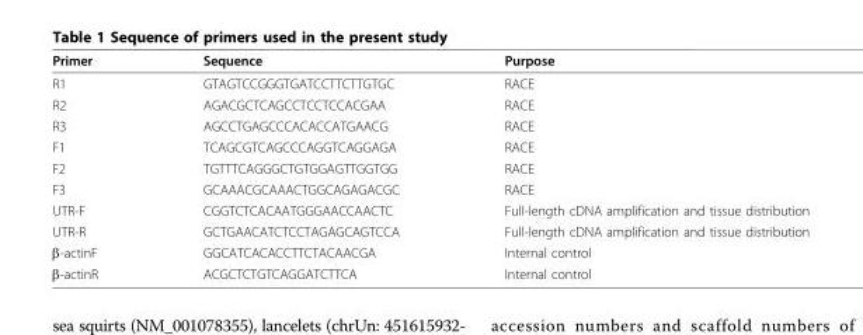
<table><thead><tr><td>Primer</td><td>Sequence</td><td>Purpose</td></tr></thead><tbody><tr><td>R1</td><td>GTAGTCCGGGTGATCCTTCTTGTGC</td><td>RACE</td></tr><tr><td>R2</td><td>AGACGCTCAGCCTCCTCCACGAA</td><td>RACE</td></tr><tr><td>R3</td><td>AGCCTGAGCCCACACCATGAACG</td><td>RACE</td></tr><tr><td>F1</td><td>TCAGCGTCAGCCCAGGTCAGGAGA</td><td>RACE</td></tr><tr><td>F2</td><td>TGTTTCAGGGCTGTGGAGTTGGTGG</td><td>RACE</td></tr><tr><td>F3</td><td>GCAAACGCAAACTGGCAGAGACGC</td><td>RACE</td></tr><tr><td>UTR-F</td><td>CGGTCTCACAATGGGAACCAACTC</td><td>Full-length cDNA amplification and tissue distribution</td></tr><tr><td>UTR-R</td><td>GCTGAACATCTCCTAGAGCAGTCCA</td><td>Full-length cDNA amplification and tissue distribution</td></tr><tr><td>β-actinF</td><td>GGCATCACACCTTCTACAACGA</td><td>Internal control</td></tr><tr><td>β-actinR</td><td>ACGCTCTGTCAGGATCTTCA</td><td>Internal control</td></tr></tbody></table>